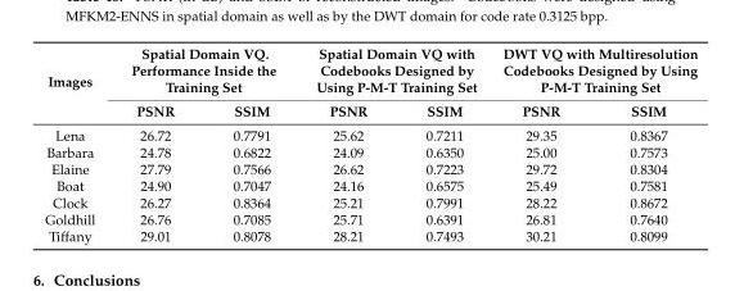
<table><thead><tr><td rowspan="2">Images</td><td colspan="2">Spatial Domain VQ. Performance Inside the Training Set</td><td colspan="2">Spatial Domain VQ with Codebooks Designed by Using P-M-T Training Set</td><td colspan="2">DWT VQ with Multiresolution Codebooks Designed by Using P-M-T Training Set</td></tr><tr><td>PSNR</td><td>SSIM</td><td>PSNR</td><td>SSIM</td><td>PSNR</td><td>SSIM</td></tr></thead><tbody><tr><td>Lena</td><td>26.72</td><td>0.7791</td><td>25.62</td><td>0.7211</td><td>29.35</td><td>0.8367</td></tr><tr><td>Barbara</td><td>24.78</td><td>0.6822</td><td>24.09</td><td>0.6350</td><td>25.00</td><td>0.7573</td></tr><tr><td>Elaine</td><td>27.79</td><td>0.7566</td><td>26.62</td><td>0.7223</td><td>29.72</td><td>0.8304</td></tr><tr><td>Boat</td><td>24.90</td><td>0.7047</td><td>24.16</td><td>0.6575</td><td>25.49</td><td>0.7581</td></tr><tr><td>Clock</td><td>26.27</td><td>0.8364</td><td>25.21</td><td>0.7991</td><td>28.22</td><td>0.8672</td></tr><tr><td>Goldhill</td><td>26.76</td><td>0.7085</td><td>25.71</td><td>0.6391</td><td>26.81</td><td>0.7640</td></tr><tr><td>Tiffany</td><td>29.01</td><td>0.8078</td><td>28.21</td><td>0.7493</td><td>30.21</td><td>0.8099</td></tr></tbody></table>